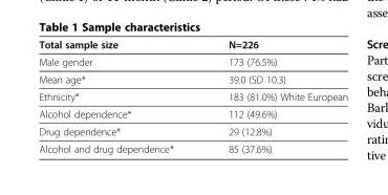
<table><thead><tr><td>Total sample size</td><td>N=226</td></tr></thead><tbody><tr><td>Male gender</td><td>173 (76.5%)</td></tr><tr><td>Mean age*</td><td>39.0 (SD 10.3)</td></tr><tr><td>Ethnicity*</td><td>183 (81.0%) White European</td></tr><tr><td>Alcohol dependence*</td><td>112 (49.6%)</td></tr><tr><td>Drug dependence*</td><td>29 (12.8%)</td></tr><tr><td>Alcohol and drug dependence*</td><td>85 (37.6%)</td></tr></tbody></table>